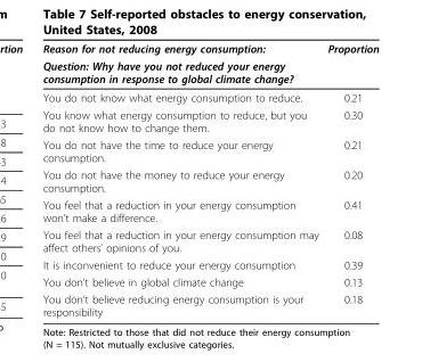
<table><thead><tr><td rowspan="2">Reason for not reducing energy consumption: Question: Why have you not reduced your energy consumption in response to global climate change?</td><td rowspan="2">Proportion</td></tr><tr></tr></thead><tbody><tr><td>You do not know what energy consumption to reduce.</td><td>0.21</td></tr><tr><td>You know what energy consumption to reduce, but you do not know how to change them.</td><td>0.30</td></tr><tr><td>You do not have the time to reduce your energy consumption.</td><td>0.21</td></tr><tr><td>You do not have the money to reduce your energy consumption.</td><td>0.20</td></tr><tr><td>You feel that a reduction in your energy consumption won’t make a difference.</td><td>0.41</td></tr><tr><td>You feel that a reduction in your energy consumption may affect others’ opinions of you.</td><td>0.08</td></tr><tr><td>It is inconvenient to reduce your energy consumption</td><td>0.39</td></tr><tr><td>You don’t believe in global climate change</td><td>0.13</td></tr><tr><td>You don’t believe reducing energy consumption is your responsibility</td><td>0.18</td></tr></tbody></table>